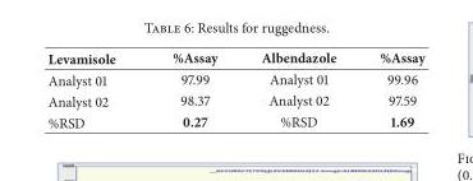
<table><thead><tr><td>Levamisole</td><td>%Assay</td><td>Albendazole</td><td>%Assay</td></tr></thead><tbody><tr><td>Analyst 01</td><td>97.99</td><td>Analyst 01</td><td>99.96</td></tr><tr><td>Analyst 02</td><td>98.37</td><td>Analyst 02</td><td>97.59</td></tr><tr><td>%RSD</td><td>0.27</td><td>%RSD</td><td>1.69</td></tr></tbody></table>